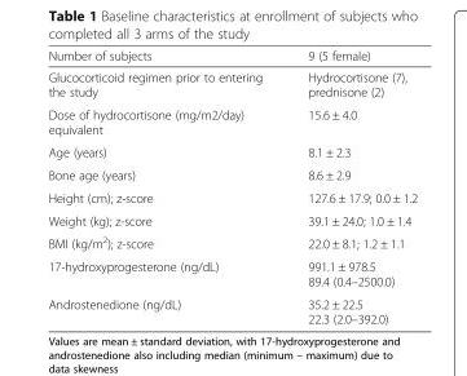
<table><thead><tr><td>Number of subjects</td><td>9 (5 female)</td></tr></thead><tbody><tr><td>Glucocorticoid regimen prior to entering the study</td><td>Hydrocortisone (7), prednisone (2)</td></tr><tr><td>Dose of hydrocortisone (mg/m2/day) equivalent</td><td>15.6 ± 4.0</td></tr><tr><td>Age (years)</td><td>8.1 ± 2.3</td></tr><tr><td>Bone age (years)</td><td>8.6 ± 2.9</td></tr><tr><td>Height (cm); z-score</td><td>127.6 ± 17.9; 0.0 ± 1.2</td></tr><tr><td>Weight (kg); z-score</td><td>39.1 ± 24.0; 1.0 ± 1.4</td></tr><tr><td>BMI (kg/m<sup>2</sup>); z-score</td><td>22.0 ± 8.1; 1.2 ± 1.1</td></tr><tr><td>17-hydroxyprogesterone (ng/dL)</td><td>991.1 ± 978.5 89.4 (0.4–2500.0)</td></tr><tr><td>Androstenedione (ng/dL)</td><td>35.2 ± 22.5 22.3 (2.0–392.0)</td></tr></tbody></table>